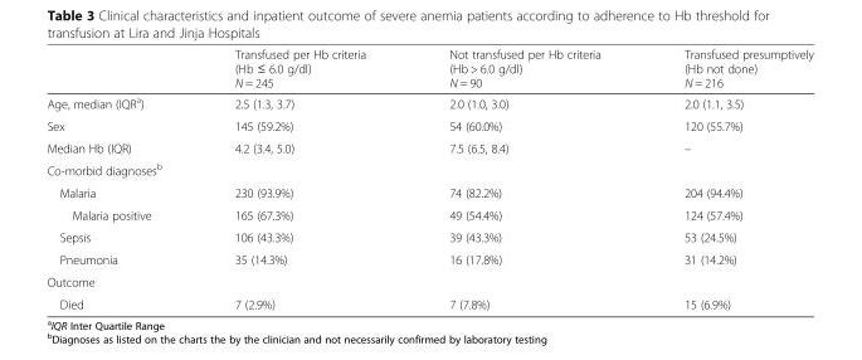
<table><thead><tr><td></td><td>Transfused per Hb criteria (Hb ≤ 6.0 g/dl) N = 245</td><td>Not transfused per Hb criteria (Hb &gt; 6.0 g/dl) N = 90</td><td>Transfused presumptively (Hb not done) N = 216</td></tr></thead><tbody><tr><td>Age, median (IQR<sup>a</sup>)</td><td>2.5 (1.3, 3.7)</td><td>2.0 (1.0, 3.0)</td><td>2.0 (1.1, 3.5)</td></tr><tr><td>Sex</td><td>145 (59.2%)</td><td>54 (60.0%)</td><td>120 (55.7%)</td></tr><tr><td>Median Hb (IQR)</td><td>4.2 (3.4, 5.0)</td><td>7.5 (6.5, 8.4)</td><td>–</td></tr><tr><td colspan="4">Co-morbid diagnoses<sup>b</sup></td></tr><tr><td>Malaria</td><td>230 (93.9%)</td><td>74 (82.2%)</td><td>204 (94.4%)</td></tr><tr><td>Malaria positive</td><td>165 (67.3%)</td><td>49 (54.4%)</td><td>124 (57.4%)</td></tr><tr><td>Sepsis</td><td>106 (43.3%)</td><td>39 (43.3%)</td><td>53 (24.5%)</td></tr><tr><td>Pneumonia</td><td>35 (14.3%)</td><td>16 (17.8%)</td><td>31 (14.2%)</td></tr><tr><td colspan="4">Outcome</td></tr><tr><td>Died</td><td>7 (2.9%)</td><td>7 (7.8%)</td><td>15 (6.9%)</td></tr></tbody></table>